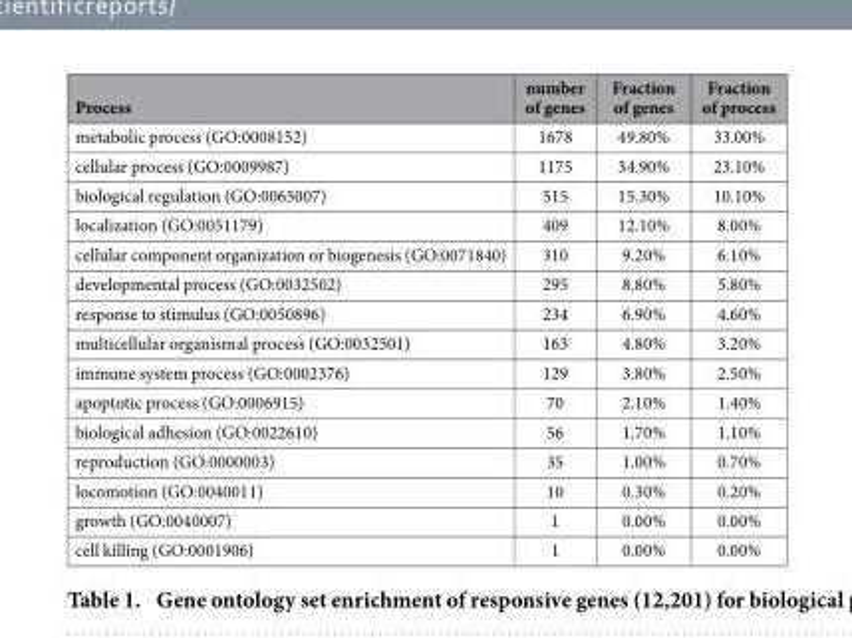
<table><thead><tr><td>Process</td><td>number of genes</td><td>Fraction of genes</td><td>Fraction of process</td></tr></thead><tbody><tr><td>metabolic process (GO:0008152)</td><td>1678</td><td>49.80%</td><td>33.00%</td></tr><tr><td>cellular process (GO:0009987)</td><td>1175</td><td>34.90%</td><td>23.10%</td></tr><tr><td>biological regulation (GO:0065007)</td><td>515</td><td>15.30%</td><td>10.10%</td></tr><tr><td>localization (GO:0051179)</td><td>409</td><td>12.10%</td><td>8.00%</td></tr><tr><td>cellular component organization or biogenesis (GO:0071840)</td><td>310</td><td>9.20%</td><td>6.10%</td></tr><tr><td>developmental process (GO:0032502)</td><td>295</td><td>8.80%</td><td>5.80%</td></tr><tr><td>response to stimulus (GO:0050896)</td><td>234</td><td>6.90%</td><td>4.60%</td></tr><tr><td>multicellular organismal process (GO:0032501)</td><td>163</td><td>4.80%</td><td>3.20%</td></tr><tr><td>immune system process (GO:0002376)</td><td>129</td><td>3.80%</td><td>2.50%</td></tr><tr><td>apoptotic process (GO:0006915)</td><td>70</td><td>2.10%</td><td>1.40%</td></tr><tr><td>biological adhesion (GO:0022610)</td><td>56</td><td>1.70%</td><td>1.10%</td></tr><tr><td>reproduction (GO:0000003)</td><td>35</td><td>1.00%</td><td>0.70%</td></tr><tr><td>locomotion (GO:0040011)</td><td>10</td><td>0.30%</td><td>0.20%</td></tr><tr><td>growth (GO:0040007)</td><td>1</td><td>0.00%</td><td>0.00%</td></tr><tr><td>cell killing (GO:0001906)</td><td>1</td><td>0.00%</td><td>0.00%</td></tr></tbody></table>